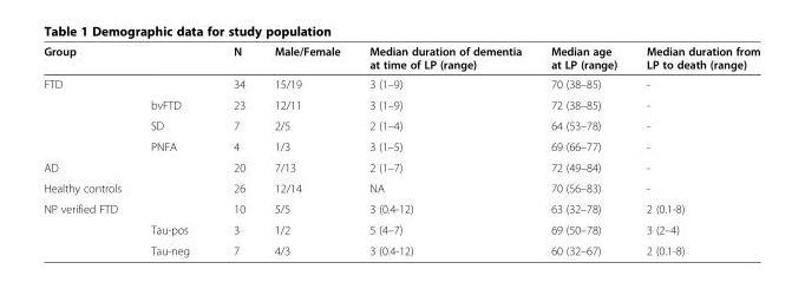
<table><thead><tr><td>Group</td><td></td><td>N</td><td>Male/Female</td><td>Median duration of dementia at time of LP (range)</td><td>Median age at LP (range)</td><td>Median duration from LP to death (range)</td></tr></thead><tbody><tr><td rowspan="4">FTD</td><td></td><td>34</td><td>15/19</td><td>3 (1–9)</td><td>70 (38–85)</td><td>-</td></tr><tr><td>bvFTD</td><td>23</td><td>12/11</td><td>3 (1–9)</td><td>72 (38–85)</td><td>-</td></tr><tr><td>SD</td><td>7</td><td>2/5</td><td>2 (1–4)</td><td>64 (53–78)</td><td>-</td></tr><tr><td>PNFA</td><td>4</td><td>1/3</td><td>3 (1–5)</td><td>69 (66–77)</td><td>-</td></tr><tr><td>AD</td><td></td><td>20</td><td>7/13</td><td>2 (1–7)</td><td>72 (49–84)</td><td>-</td></tr><tr><td>Healthy controls</td><td></td><td>26</td><td>12/14</td><td>NA</td><td>70 (56–83)</td><td>-</td></tr><tr><td rowspan="3">NP verified FTD</td><td></td><td>10</td><td>5/5</td><td>3 (0.4-12)</td><td>63 (32–78)</td><td>2 (0.1-8)</td></tr><tr><td>Tau-pos</td><td>3</td><td>1/2</td><td>5 (4–7)</td><td>69 (50–78)</td><td>3 (2–4)</td></tr><tr><td>Tau-neg</td><td>7</td><td>4/3</td><td>3 (0.4-12)</td><td>60 (32–67)</td><td>2 (0.1-8)</td></tr></tbody></table>